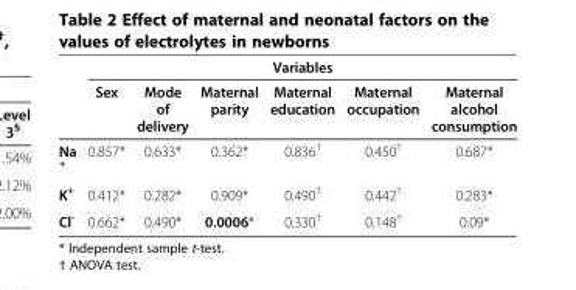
<table><thead><tr><td rowspan="2"></td><td colspan="6">Variables</td></tr><tr><td>Sex</td><td>Mode of delivery</td><td>Maternal parity</td><td>Maternal education</td><td>Maternal occupation</td><td>Maternal alcohol consumption</td></tr></thead><tbody><tr><td>Na <sup>+</sup></td><td>0.857*</td><td>0.633*</td><td>0.362*</td><td>0.836<sup>†</sup></td><td>0.450<sup>†</sup></td><td>0.687*</td></tr><tr><td>K<sup>+</sup></td><td>0.412*</td><td>0.282*</td><td>0.909*</td><td>0.490<sup>†</sup></td><td>0.442<sup>†</sup></td><td>0.283*</td></tr><tr><td>Cl<sup>-</sup></td><td>0.662*</td><td>0.490*</td><td>0.0006*</td><td>0.330<sup>†</sup></td><td>0.148<sup>†</sup></td><td>0.09*</td></tr></tbody></table>